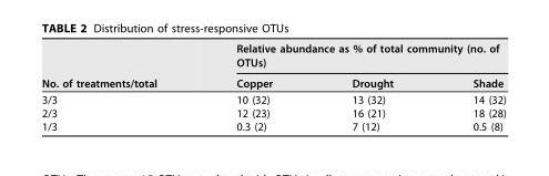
<table><thead><tr><td rowspan="2">No. of treatments/total</td><td colspan="3">Relative abundance as % of total community (no. of OTUs)</td></tr><tr><td>Copper</td><td>Drought</td><td>Shade</td></tr></thead><tbody><tr><td>3/3</td><td>10 (32)</td><td>13 (32)</td><td>14 (32)</td></tr><tr><td>2/3</td><td>12 (23)</td><td>16 (21)</td><td>18 (28)</td></tr><tr><td>1/3</td><td>0.3 (2)</td><td>7 (12)</td><td>0.5 (8)</td></tr></tbody></table>